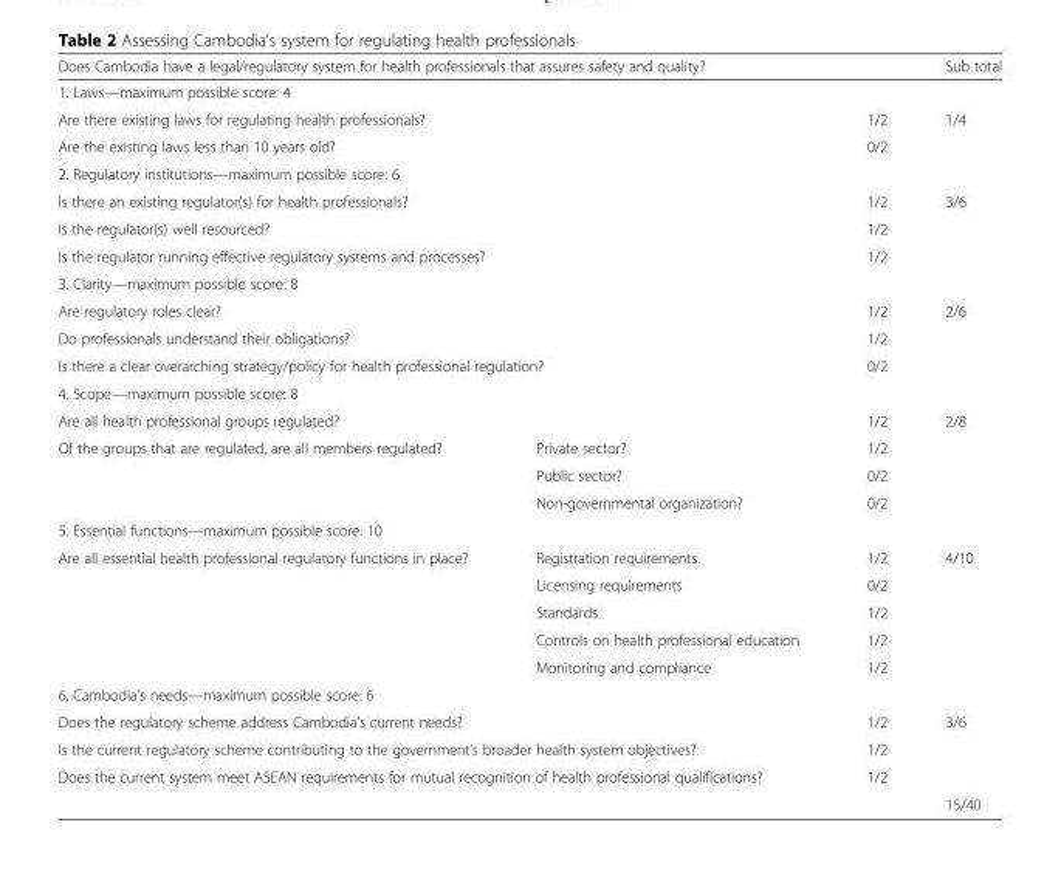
<table><thead><tr><td colspan="3">Does Cambodia have a legal/regulatory system for health professionals that assures safety and quality?</td><td>Sub total</td></tr></thead><tbody><tr><td colspan="4">1. Laws—maximum possible score: 4</td></tr><tr><td colspan="2">Are there existing laws for regulating health professionals?</td><td>1/2</td><td rowspan="2">1/4</td></tr><tr><td colspan="2">Are the existing laws less than 10 years old?</td><td>0/2</td></tr><tr><td colspan="4">2. Regulatory institutions—maximum possible score: 6</td></tr><tr><td colspan="2">Is there an existing regulator(s) for health professionals?</td><td>1/2</td><td rowspan="3">3/6</td></tr><tr><td colspan="2">Is the regulator(s) well resourced?</td><td>1/2</td></tr><tr><td colspan="2">Is the regulator running effective regulatory systems and processes?</td><td>1/2</td></tr><tr><td colspan="4">3. Clarity—maximum possible score: 8</td></tr><tr><td colspan="2">Are regulatory roles clear?</td><td>1/2</td><td rowspan="3">2/6</td></tr><tr><td colspan="2">Do professionals understand their obligations?</td><td>1/2</td></tr><tr><td colspan="2">Is there a clear overarching strategy/policy for health professional regulation?</td><td>0/2</td></tr><tr><td colspan="4">4. Scope—maximum possible score: 8</td></tr><tr><td colspan="2">Are all health professional groups regulated?</td><td>1/2</td><td rowspan="4">2/8</td></tr><tr><td rowspan="3">Of the groups that are regulated, are all members regulated?</td><td>Private sector?</td><td>1/2</td></tr><tr><td>Public sector?</td><td>0/2</td></tr><tr><td>Non-governmental organization?</td><td>0/2</td></tr><tr><td colspan="4">5. Essential functions—maximum possible score: 10</td></tr><tr><td rowspan="5">Are all essential health professional regulatory functions in place?</td><td>Registration requirements</td><td>1/2</td><td rowspan="5">4/10</td></tr><tr><td>Licensing requirements</td><td>0/2</td></tr><tr><td>Standards</td><td>1/2</td></tr><tr><td>Controls on health professional education</td><td>1/2</td></tr><tr><td>Monitoring and compliance</td><td>1/2</td></tr><tr><td colspan="4">6. Cambodia’s needs—maximum possible score: 6</td></tr><tr><td colspan="2">Does the regulatory scheme address Cambodia’s current needs?</td><td>1/2</td><td rowspan="3">3/6</td></tr><tr><td colspan="2">Is the current regulatory scheme contributing to the government’s broader health system objectives?</td><td>1/2</td></tr><tr><td colspan="2">Does the current system meet ASEAN requirements for mutual recognition of health professional qualifications?</td><td>1/2</td></tr><tr><td colspan="3"></td><td>15/40</td></tr></tbody></table>